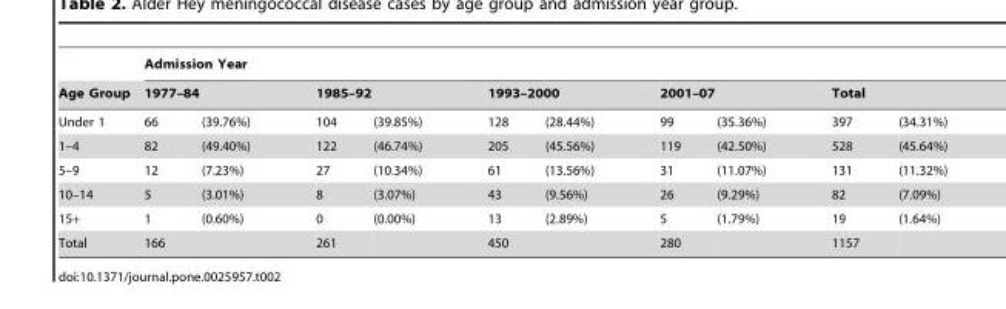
<table><thead><tr><td rowspan="3">Age Group Under 1</td><td colspan="10">Admission Year</td></tr><tr><td colspan="2">1977–84</td><td colspan="2">1985–92</td><td colspan="2">1993–2000</td><td colspan="2">2001–07</td><td colspan="2">Total</td></tr><tr><td>66</td><td>(39.76%)</td><td>104</td><td>(39.85%)</td><td>128</td><td>(28.44%)</td><td>99</td><td>(35.36%)</td><td>397</td><td>(34.31%)</td></tr></thead><tbody><tr><td>1–4</td><td>82</td><td>(49.40%)</td><td>122</td><td>(46.74%)</td><td>205</td><td>(45.56%)</td><td>119</td><td>(42.50%)</td><td>528</td><td>(45.64%)</td></tr><tr><td>5–9</td><td>12</td><td>(7.23%)</td><td>27</td><td>(10.34%)</td><td>61</td><td>(13.56%)</td><td>31</td><td>(11.07%)</td><td>131</td><td>(11.32%)</td></tr><tr><td>10–14</td><td>5</td><td>(3.01%)</td><td>8</td><td>(3.07%)</td><td>43</td><td>(9.56%)</td><td>26</td><td>(9.29%)</td><td>82</td><td>(7.09%)</td></tr><tr><td>15+</td><td>1</td><td>(0.60%)</td><td>0</td><td>(0.00%)</td><td>13</td><td>(2.89%)</td><td>5</td><td>(1.79%)</td><td>19</td><td>(1.64%)</td></tr><tr><td>Total</td><td>166</td><td></td><td>261</td><td></td><td>450</td><td></td><td>280</td><td></td><td>1157</td><td></td></tr></tbody></table>